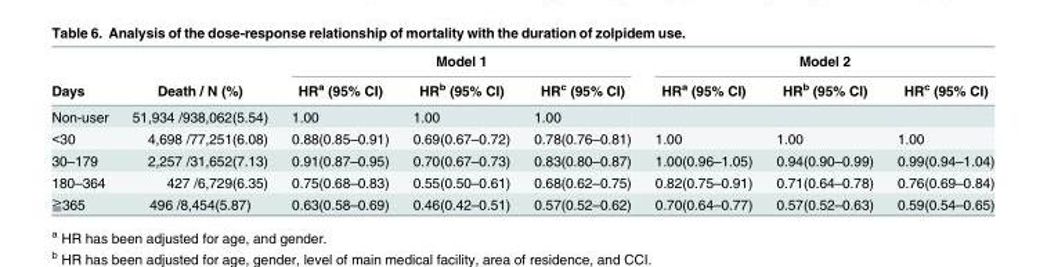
<table><thead><tr><td rowspan="2">Days</td><td rowspan="2">Death / N (%)</td><td colspan="3">Model 1</td><td colspan="3">Model 2</td></tr><tr><td>HR<sup>a</sup> (95% CI)</td><td>HR<sup>b</sup> (95% CI)</td><td>HR<sup>c</sup> (95% CI)</td><td>HR<sup>a</sup> (95% CI)</td><td>HR<sup>b</sup> (95% CI)</td><td>HR<sup>c</sup> (95% CI)</td></tr></thead><tbody><tr><td>Non-user</td><td>51,934 /938,062(5.54)</td><td>1.00</td><td>1.00</td><td>1.00</td><td></td><td></td><td></td></tr><tr><td>&lt;30</td><td>4,698 /77,251(6.08)</td><td>0.88(0.85–0.91)</td><td>0.69(0.67–0.72)</td><td>0.78(0.76–0.81)</td><td>1.00</td><td>1.00</td><td>1.00</td></tr><tr><td>30–179</td><td>2,257 /31,652(7.13)</td><td>0.91(0.87–0.95)</td><td>0.70(0.67–0.73)</td><td>0.83(0.80–0.87)</td><td>1.00(0.96–1.05)</td><td>0.94(0.90–0.99)</td><td>0.99(0.94–1.04)</td></tr><tr><td>180–364</td><td>427 /6,729(6.35)</td><td>0.75(0.68–0.83)</td><td>0.55(0.50–0.61)</td><td>0.68(0.62–0.75)</td><td>0.82(0.75–0.91)</td><td>0.71(0.64–0.78)</td><td>0.76(0.69–0.84)</td></tr><tr><td>≧365</td><td>496 /8,454(5.87)</td><td>0.63(0.58–0.69)</td><td>0.46(0.42–0.51)</td><td>0.57(0.52–0.62)</td><td>0.70(0.64–0.77)</td><td>0.57(0.52–0.63)</td><td>0.59(0.54–0.65)</td></tr></tbody></table>